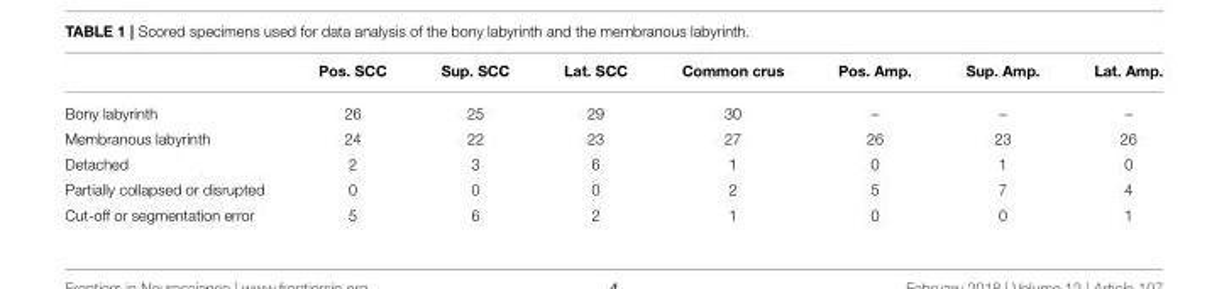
<table><thead><tr><td></td><td>Pos. SCC</td><td>Sup. SCC</td><td>Lat. SCC</td><td>Common crus</td><td>Pos. Amp.</td><td>Sup. Amp.</td><td>Lat. Amp.</td></tr></thead><tbody><tr><td>Bony labyrinth</td><td>26</td><td>25</td><td>29</td><td>30</td><td>–</td><td>–</td><td>–</td></tr><tr><td>Membranous labyrinth</td><td>24</td><td>22</td><td>23</td><td>27</td><td>26</td><td>23</td><td>26</td></tr><tr><td>Detached</td><td>2</td><td>3</td><td>6</td><td>1</td><td>0</td><td>1</td><td>0</td></tr><tr><td>Partially collapsed or disrupted</td><td>0</td><td>0</td><td>0</td><td>2</td><td>5</td><td>7</td><td>4</td></tr><tr><td>Cut-off or segmentation error</td><td>5</td><td>6</td><td>2</td><td>1</td><td>0</td><td>0</td><td>1</td></tr></tbody></table>